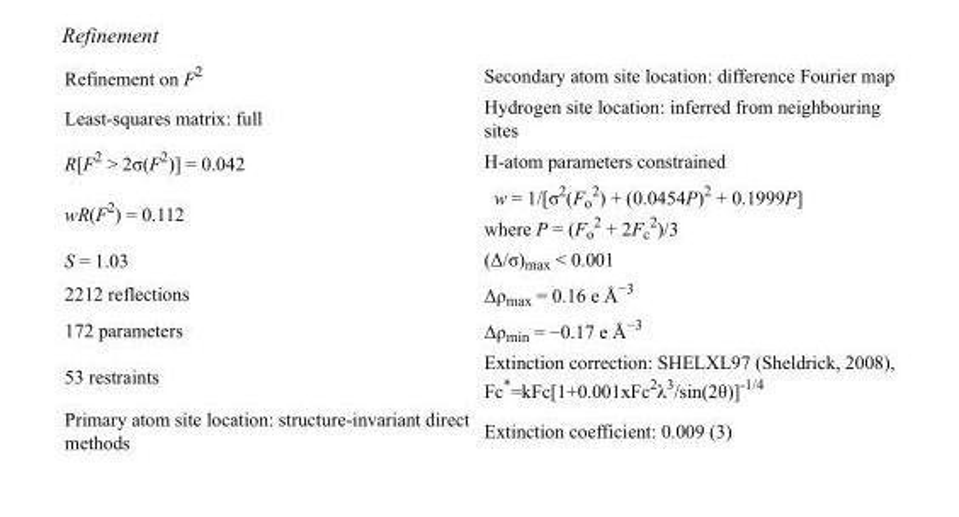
<table><tbody><tr><td>Refinement on F<sup>2</sup></td><td>Secondary atom site location: difference Fourier map</td></tr><tr><td>Least-squares matrix: full</td><td>Hydrogen site location: inferred from neighbouring sites</td></tr><tr><td>R[F<sup>2</sup> &gt; 2σ(F<sup>2</sup>)] = 0.042</td><td>H-atom parameters constrained</td></tr><tr><td>wR(F<sup>2</sup>) = 0.112</td><td>w = 1/[σ<sup>2</sup>(F<sub>o</sub> <sup>2</sup>) + (0.0454P)<sup>2</sup> + 0.1999P] where P = (F<sub>o</sub> <sup>2</sup> + 2F<sub>c</sub> <sup>2</sup>)/3</td></tr><tr><td>S = 1.03</td><td>(Δ/σ)<sub>max</sub> &lt; 0.001</td></tr><tr><td>2212 reflections</td><td>Δρ<sub>max</sub> = 0.16 e Å<sup>−3</sup></td></tr><tr><td>172 parameters</td><td>Δρ<sub>min</sub> = −0.17 e Å<sup>−3</sup></td></tr><tr><td>53 restraints</td><td>Extinction correction: SHELXL97 (Sheldrick, 2008), Fc*=kFc[1+0.001xFc<sup>2</sup>λ<sup>3</sup>/sin(2θ)]<sup>-1/4</sup></td></tr><tr><td>Primary atom site location: structure-invariant direct methods</td><td>Extinction coefficient: 0.009 (3)</td></tr></tbody></table>